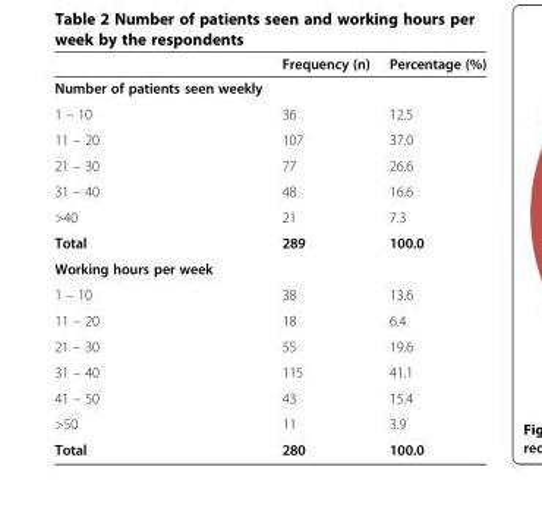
<table><thead><tr><td></td><td>Frequency (n)</td><td>Percentage (%)</td></tr></thead><tbody><tr><td colspan="3">Number of patients seen weekly</td></tr><tr><td>1 – 10</td><td>36</td><td>12.5</td></tr><tr><td>11 – 20</td><td>107</td><td>37.0</td></tr><tr><td>21 – 30</td><td>77</td><td>26.6</td></tr><tr><td>31 – 40</td><td>48</td><td>16.6</td></tr><tr><td>&gt;40</td><td>21</td><td>7.3</td></tr><tr><td>Total</td><td>289</td><td>100.0</td></tr><tr><td colspan="3">Working hours per week</td></tr><tr><td>1 – 10</td><td>38</td><td>13.6</td></tr><tr><td>11 – 20</td><td>18</td><td>6.4</td></tr><tr><td>21 – 30</td><td>55</td><td>19.6</td></tr><tr><td>31 – 40</td><td>115</td><td>41.1</td></tr><tr><td>41 – 50</td><td>43</td><td>15.4</td></tr><tr><td>&gt;50</td><td>11</td><td>3.9</td></tr><tr><td>Total</td><td>280</td><td>100.0</td></tr></tbody></table>